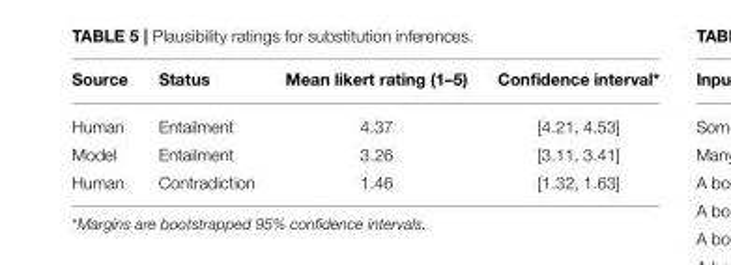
<table><thead><tr><td>Source</td><td>Status</td><td>Mean likert rating (1–5)</td><td>Confidence interval*</td></tr></thead><tbody><tr><td>Human</td><td>Entailment</td><td>4.37</td><td>[4.21, 4.53]</td></tr><tr><td>Model</td><td>Entailment</td><td>3.26</td><td>[3.11, 3.41]</td></tr><tr><td>Human</td><td>Contradiction</td><td>1.46</td><td>[1.32, 1.63]</td></tr></tbody></table>